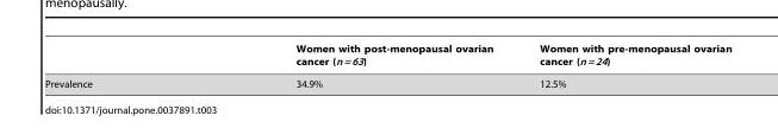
<table><thead><tr><td></td><td>Women with post-menopausal ovarian cancer (n = 63)</td><td>Women with pre-menopausal ovarian cancer (n = 24)</td></tr></thead><tbody><tr><td>Prevalence</td><td>34.9%</td><td>12.5%</td></tr></tbody></table>